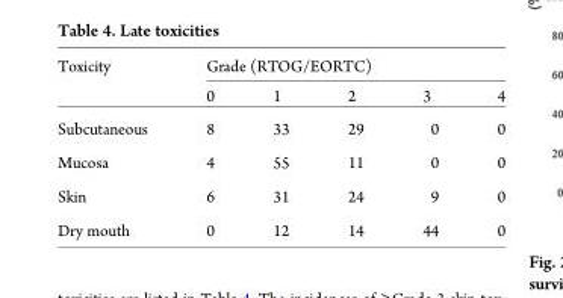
<table><thead><tr><td rowspan="2">Toxicity</td><td colspan="5">Grade (RTOG/EORTC)</td></tr><tr><td>0</td><td>1</td><td>2</td><td>3</td><td>4</td></tr></thead><tbody><tr><td>Subcutaneous</td><td>8</td><td>33</td><td>29</td><td>0</td><td>0</td></tr><tr><td>Mucosa</td><td>4</td><td>55</td><td>11</td><td>0</td><td>0</td></tr><tr><td>Skin</td><td>6</td><td>31</td><td>24</td><td>9</td><td>0</td></tr><tr><td>Dry mouth</td><td>0</td><td>12</td><td>14</td><td>44</td><td>0</td></tr></tbody></table>